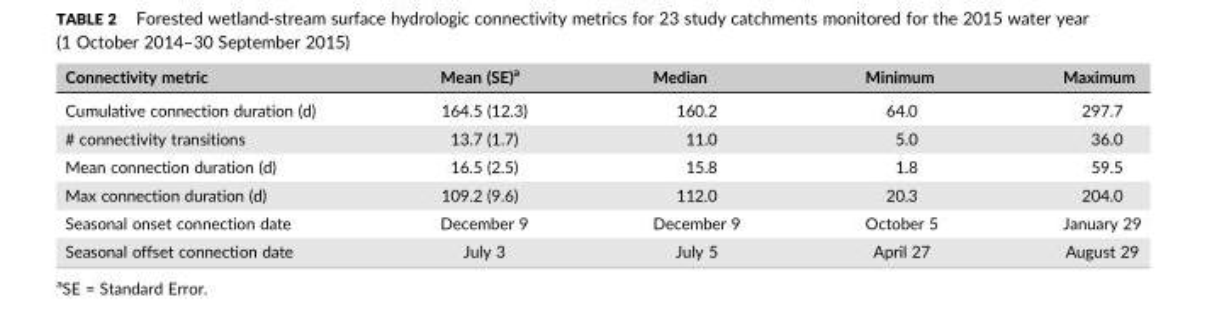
<table><thead><tr><td>Connectivity metric</td><td>Mean (SE)<sup>a</sup></td><td>Median</td><td>Minimum</td><td>Maximum</td></tr></thead><tbody><tr><td>Cumulative connection duration (d)</td><td>164.5 (12.3)</td><td>160.2</td><td>64.0</td><td>297.7</td></tr><tr><td># connectivity transitions</td><td>13.7 (1.7)</td><td>11.0</td><td>5.0</td><td>36.0</td></tr><tr><td>Mean connection duration (d)</td><td>16.5 (2.5)</td><td>15.8</td><td>1.8</td><td>59.5</td></tr><tr><td>Max connection duration (d)</td><td>109.2 (9.6)</td><td>112.0</td><td>20.3</td><td>204.0</td></tr><tr><td>Seasonal onset connection date</td><td>December 9</td><td>December 9</td><td>October 5</td><td>January 29</td></tr><tr><td>Seasonal offset connection date</td><td>July 3</td><td>July 5</td><td>April 27</td><td>August 29</td></tr></tbody></table>